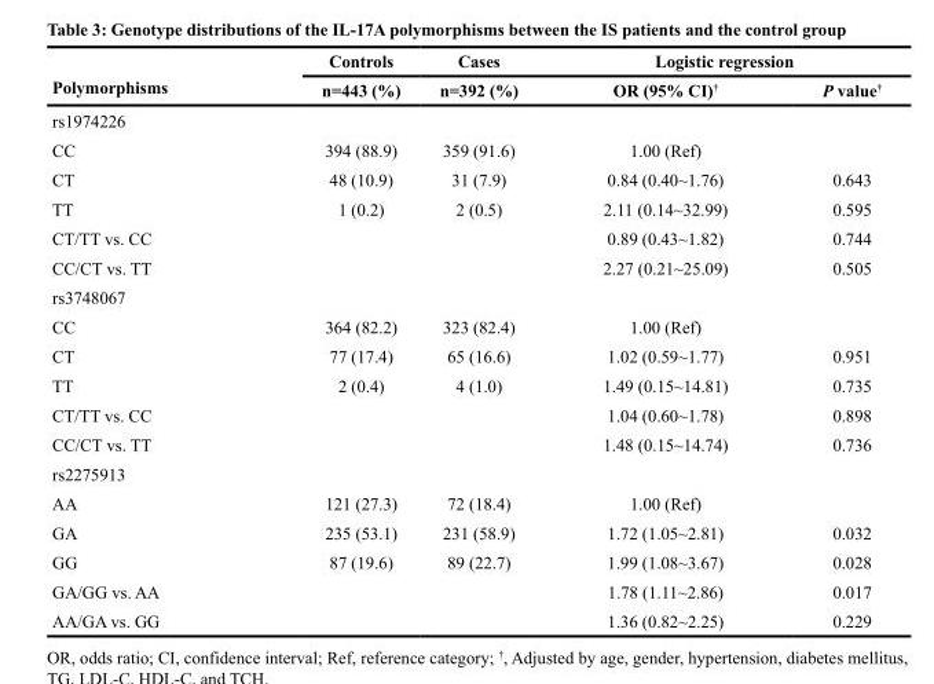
<table><thead><tr><td rowspan="2">Polymorphisms</td><td rowspan="2">Controls n=443 (%)</td><td rowspan="2">Cases n=392 (%)</td><td colspan="2">Logistic regression</td></tr><tr><td>OR (95% CI)<sup>†</sup></td><td>P value<sup>†</sup></td></tr></thead><tbody><tr><td colspan="5">rs1974226</td></tr><tr><td>CC</td><td>394 (88.9)</td><td>359 (91.6)</td><td>1.00 (Ref)</td><td></td></tr><tr><td>CT</td><td>48 (10.9)</td><td>31 (7.9)</td><td>0.84 (0.40~1.76)</td><td>0.643</td></tr><tr><td>TT</td><td>1 (0.2)</td><td>2 (0.5)</td><td>2.11 (0.14~32.99)</td><td>0.595</td></tr><tr><td>CT/TT vs. CC</td><td></td><td></td><td>0.89 (0.43~1.82)</td><td>0.744</td></tr><tr><td>CC/CT vs. TT</td><td></td><td></td><td>2.27 (0.21~25.09)</td><td>0.505</td></tr><tr><td colspan="5">rs3748067</td></tr><tr><td>CC</td><td>364 (82.2)</td><td>323 (82.4)</td><td>1.00 (Ref)</td><td></td></tr><tr><td>CT</td><td>77 (17.4)</td><td>65 (16.6)</td><td>1.02 (0.59~1.77)</td><td>0.951</td></tr><tr><td>TT</td><td>2 (0.4)</td><td>4 (1.0)</td><td>1.49 (0.15~14.81)</td><td>0.735</td></tr><tr><td>CT/TT vs. CC</td><td></td><td></td><td>1.04 (0.60~1.78)</td><td>0.898</td></tr><tr><td>CC/CT vs. TT</td><td></td><td></td><td>1.48 (0.15~14.74)</td><td>0.736</td></tr><tr><td colspan="5">rs2275913</td></tr><tr><td>AA</td><td>121 (27.3)</td><td>72 (18.4)</td><td>1.00 (Ref)</td><td></td></tr><tr><td>GA</td><td>235 (53.1)</td><td>231 (58.9)</td><td>1.72 (1.05~2.81)</td><td>0.032</td></tr><tr><td>GG</td><td>87 (19.6)</td><td>89 (22.7)</td><td>1.99 (1.08~3.67)</td><td>0.028</td></tr><tr><td>GA/GG vs. AA</td><td></td><td></td><td>1.78 (1.11~2.86)</td><td>0.017</td></tr><tr><td>AA/GA vs. GG</td><td></td><td></td><td>1.36 (0.82~2.25)</td><td>0.229</td></tr></tbody></table>